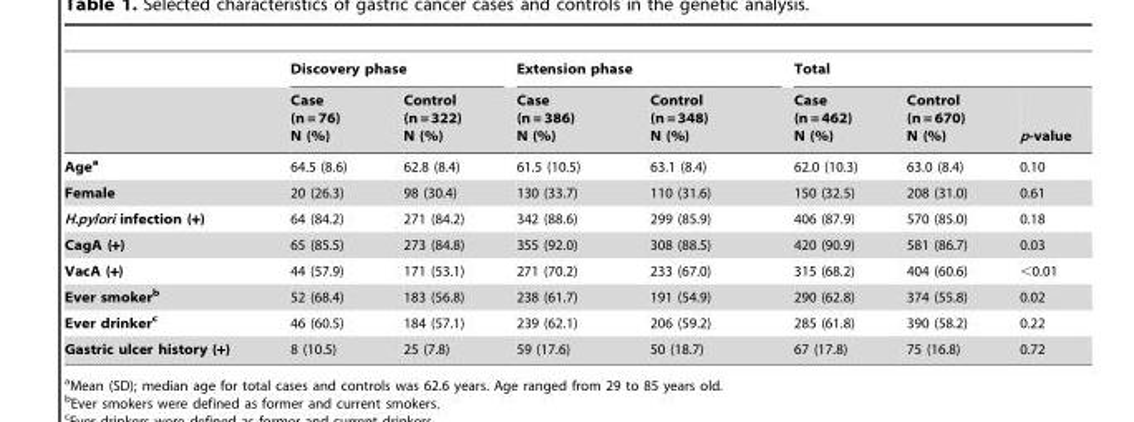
<table><thead><tr><td rowspan="2"></td><td colspan="2">Discovery phase</td><td colspan="2">Extension phase</td><td colspan="3">Total</td></tr><tr><td>Case (n = 76) N (%)</td><td>Control (n = 322) N (%)</td><td>Case (n = 386) N (%)</td><td>Control (n = 348) N (%)</td><td>Case (n = 462) N (%)</td><td>Control (n = 670) N (%)</td><td>p-value</td></tr></thead><tbody><tr><td>Agea</td><td>64.5 (8.6)</td><td>62.8 (8.4)</td><td>61.5 (10.5)</td><td>63.1 (8.4)</td><td>62.0 (10.3)</td><td>63.0 (8.4)</td><td>0.10</td></tr><tr><td>Female</td><td>20 (26.3)</td><td>98 (30.4)</td><td>130 (33.7)</td><td>110 (31.6)</td><td>150 (32.5)</td><td>208 (31.0)</td><td>0.61</td></tr><tr><td>H.pylori infection (+)</td><td>64 (84.2)</td><td>271 (84.2)</td><td>342 (88.6)</td><td>299 (85.9)</td><td>406 (87.9)</td><td>570 (85.0)</td><td>0.18</td></tr><tr><td>CagA (+)</td><td>65 (85.5)</td><td>273 (84.8)</td><td>355 (92.0)</td><td>308 (88.5)</td><td>420 (90.9)</td><td>581 (86.7)</td><td>0.03</td></tr><tr><td>VacA (+)</td><td>44 (57.9)</td><td>171 (53.1)</td><td>271 (70.2)</td><td>233 (67.0)</td><td>315 (68.2)</td><td>404 (60.6)</td><td>&lt;0.01</td></tr><tr><td>Ever smokerb</td><td>52 (68.4)</td><td>183 (56.8)</td><td>238 (61.7)</td><td>191 (54.9)</td><td>290 (62.8)</td><td>374 (55.8)</td><td>0.02</td></tr><tr><td>Ever drinkerc</td><td>46 (60.5)</td><td>184 (57.1)</td><td>239 (62.1)</td><td>206 (59.2)</td><td>285 (61.8)</td><td>390 (58.2)</td><td>0.22</td></tr><tr><td>Gastric ulcer history (+)</td><td>8 (10.5)</td><td>25 (7.8)</td><td>59 (17.6)</td><td>50 (18.7)</td><td>67 (17.8)</td><td>75 (16.8)</td><td>0.72</td></tr></tbody></table>